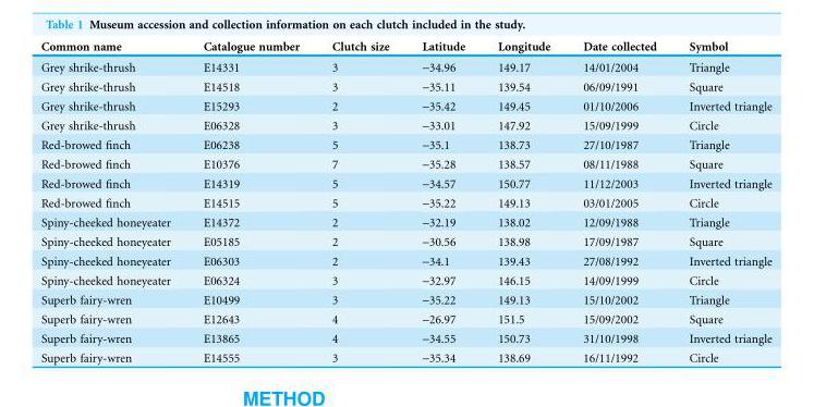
<table><thead><tr><td>Common name</td><td>Catalogue number</td><td>Clutch size</td><td>Latitude</td><td>Longitude</td><td>Date collected</td><td>Symbol</td></tr></thead><tbody><tr><td>Grey shrike-thrush</td><td>E14331</td><td>3</td><td>-34.96</td><td>149.17</td><td>14/01/2004</td><td>Triangle</td></tr><tr><td>Grey shrike-thrush</td><td>E14518</td><td>3</td><td>-35.11</td><td>139.54</td><td>06/09/1991</td><td>Square</td></tr><tr><td>Grey shrike-thrush</td><td>E15293</td><td>2</td><td>-35.42</td><td>149.45</td><td>01/10/2006</td><td>Inverted triangle</td></tr><tr><td>Grey shrike-thrush</td><td>E06328</td><td>3</td><td>-33.01</td><td>147.92</td><td>15/09/1999</td><td>Circle</td></tr><tr><td>Red-browed finch</td><td>E06238</td><td>5</td><td>-35.1</td><td>138.73</td><td>27/10/1987</td><td>Triangle</td></tr><tr><td>Red-browed finch</td><td>E10376</td><td>7</td><td>-35.28</td><td>138.57</td><td>08/11/1988</td><td>Square</td></tr><tr><td>Red-browed finch</td><td>E14319</td><td>5</td><td>-34.57</td><td>150.77</td><td>11/12/2003</td><td>Inverted triangle</td></tr><tr><td>Red-browed finch</td><td>E14515</td><td>5</td><td>-35.22</td><td>149.13</td><td>03/01/2005</td><td>Circle</td></tr><tr><td>Spiny-cheeked honeyeater</td><td>E14372</td><td>2</td><td>-32.19</td><td>138.02</td><td>12/09/1988</td><td>Triangle</td></tr><tr><td>Spiny-cheeked honeyeater</td><td>E05185</td><td>2</td><td>-30.56</td><td>138.98</td><td>17/09/1987</td><td>Square</td></tr><tr><td>Spiny-cheeked honeyeater</td><td>E06303</td><td>2</td><td>-34.1</td><td>139.43</td><td>27/08/1992</td><td>Inverted triangle</td></tr><tr><td>Spiny-cheeked honeyeater</td><td>E06324</td><td>3</td><td>-32.97</td><td>146.15</td><td>14/09/1999</td><td>Circle</td></tr><tr><td>Superb fairy-wren</td><td>E10499</td><td>3</td><td>-35.22</td><td>149.13</td><td>15/10/2002</td><td>Triangle</td></tr><tr><td>Superb fairy-wren</td><td>E12643</td><td>4</td><td>-26.97</td><td>151.5</td><td>15/09/2002</td><td>Square</td></tr><tr><td>Superb fairy-wren</td><td>E13865</td><td>4</td><td>-34.55</td><td>150.73</td><td>31/10/1998</td><td>Inverted triangle</td></tr><tr><td>Superb fairy-wren</td><td>E14555</td><td>3</td><td>-35.34</td><td>138.69</td><td>16/11/1992</td><td>Circle</td></tr></tbody></table>